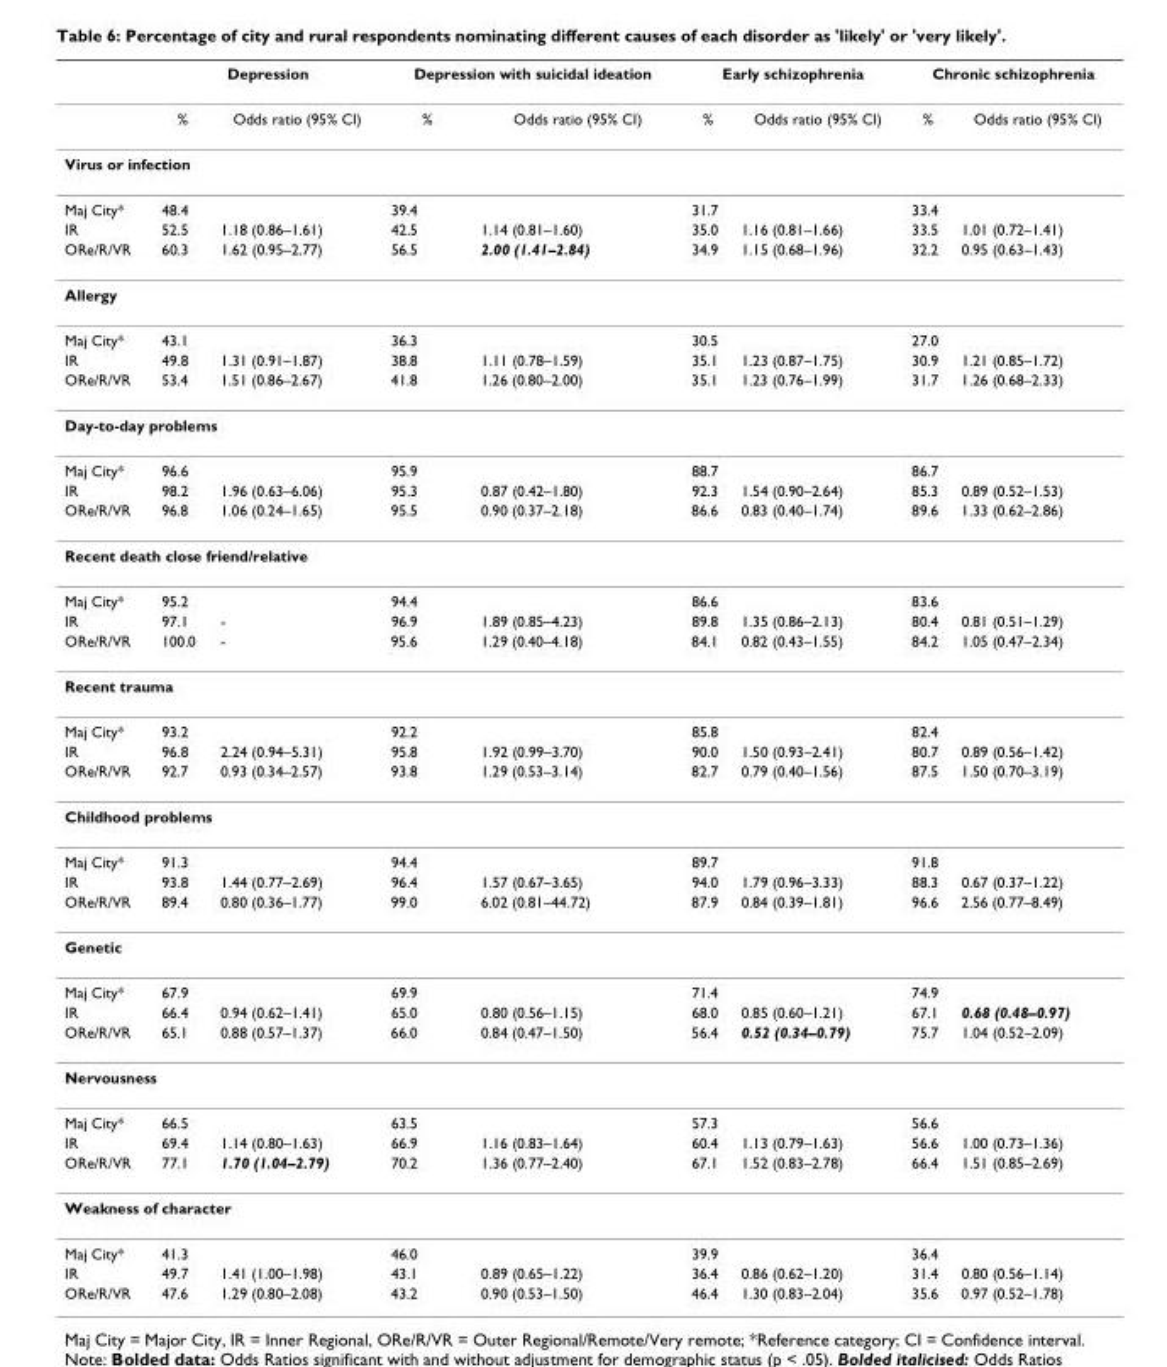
<table><thead><tr><td rowspan="2"></td><td colspan="2">Depression</td><td colspan="2">Depression with suicidal ideation</td><td colspan="2">Early schizophrenia</td><td colspan="2">Chronic schizophrenia</td></tr><tr><td>%</td><td>Odds ratio (95% CI)</td><td>%</td><td>Odds ratio (95% CI)</td><td>%</td><td>Odds ratio (95% CI)</td><td>%</td><td>Odds ratio (95% CI)</td></tr></thead><tbody><tr><td colspan="9">Virus or infection</td></tr><tr><td>Maj City*</td><td>48.4</td><td></td><td>39.4</td><td></td><td>31.7</td><td></td><td>33.4</td><td></td></tr><tr><td>IR</td><td>52.5</td><td>1.18 (0.86–1.61)</td><td>42.5</td><td>1.14 (0.81–1.60)</td><td>35.0</td><td>1.16 (0.81–1.66)</td><td>33.5</td><td>1.01 (0.72–1.41)</td></tr><tr><td>ORe/R/VR</td><td>60.3</td><td>1.62 (0.95–2.77)</td><td>56.5</td><td>2.00 (1.41–2.84)</td><td>34.9</td><td>1.15 (0.68–1.96)</td><td>32.2</td><td>0.95 (0.63–1.43)</td></tr><tr><td colspan="9">Allergy</td></tr><tr><td>Maj City*</td><td>43.1</td><td></td><td>36.3</td><td></td><td>30.5</td><td></td><td>27.0</td><td></td></tr><tr><td>IR</td><td>49.8</td><td>1.31 (0.91–1.87)</td><td>38.8</td><td>1.11 (0.78–1.59)</td><td>35.1</td><td>1.23 (0.87–1.75)</td><td>30.9</td><td>1.21 (0.85–1.72)</td></tr><tr><td>ORe/R/VR</td><td>53.4</td><td>1.51 (0.86–2.67)</td><td>41.8</td><td>1.26 (0.80–2.00)</td><td>35.1</td><td>1.23 (0.76–1.99)</td><td>31.7</td><td>1.26 (0.68–2.33)</td></tr><tr><td colspan="9">Day-to-day problems</td></tr><tr><td>Maj City*</td><td>96.6</td><td></td><td>95.9</td><td></td><td>88.7</td><td></td><td>86.7</td><td></td></tr><tr><td>IR</td><td>98.2</td><td>1.96 (0.63–6.06)</td><td>95.3</td><td>0.87 (0.42–1.80)</td><td>92.3</td><td>1.54 (0.90–2.64)</td><td>85.3</td><td>0.89 (0.52–1.53)</td></tr><tr><td>ORe/R/VR</td><td>96.8</td><td>1.06 (0.24–1.65)</td><td>95.5</td><td>0.90 (0.37–2.18)</td><td>86.6</td><td>0.83 (0.40–1.74)</td><td>89.6</td><td>1.33 (0.62–2.86)</td></tr><tr><td colspan="9">Recent death close friend/relative</td></tr><tr><td>Maj City*</td><td>95.2</td><td></td><td>94.4</td><td></td><td>86.6</td><td></td><td>83.6</td><td></td></tr><tr><td>IR</td><td>97.1</td><td>-</td><td>96.9</td><td>1.89 (0.85–4.23)</td><td>89.8</td><td>1.35 (0.86–2.13)</td><td>80.4</td><td>0.81 (0.51–1.29)</td></tr><tr><td>ORe/R/VR</td><td>100.0</td><td>-</td><td>95.6</td><td>1.29 (0.40–4.18)</td><td>84.1</td><td>0.82 (0.43–1.55)</td><td>84.2</td><td>1.05 (0.47–2.34)</td></tr><tr><td colspan="9">Recent trauma</td></tr><tr><td>Maj City*</td><td>93.2</td><td></td><td>92.2</td><td></td><td>85.8</td><td></td><td>82.4</td><td></td></tr><tr><td>IR</td><td>96.8</td><td>2.24 (0.94–5.31)</td><td>95.8</td><td>1.92 (0.99–3.70)</td><td>90.0</td><td>1.50 (0.93–2.41)</td><td>80.7</td><td>0.89 (0.56–1.42)</td></tr><tr><td>ORe/R/VR</td><td>92.7</td><td>0.93 (0.34–2.57)</td><td>93.8</td><td>1.29 (0.53–3.14)</td><td>82.7</td><td>0.79 (0.40–1.56)</td><td>87.5</td><td>1.50 (0.70–3.19)</td></tr><tr><td colspan="9">Childhood problems</td></tr><tr><td>Maj City*</td><td>91.3</td><td></td><td>94.4</td><td></td><td>89.7</td><td></td><td>91.8</td><td></td></tr><tr><td>IR</td><td>93.8</td><td>1.44 (0.77–2.69)</td><td>96.4</td><td>1.57 (0.67–3.65)</td><td>94.0</td><td>1.79 (0.96–3.33)</td><td>88.3</td><td>0.67 (0.37–1.22)</td></tr><tr><td>ORe/R/VR</td><td>89.4</td><td>0.80 (0.36–1.77)</td><td>99.0</td><td>6.02 (0.81–44.72)</td><td>87.9</td><td>0.84 (0.39–1.81)</td><td>96.6</td><td>2.56 (0.77–8.49)</td></tr><tr><td colspan="9">Genetic</td></tr><tr><td>Maj City*</td><td>67.9</td><td></td><td>69.9</td><td></td><td>71.4</td><td></td><td>74.9</td><td></td></tr><tr><td>IR</td><td>66.4</td><td>0.94 (0.62–1.41)</td><td>65.0</td><td>0.80 (0.56–1.15)</td><td>68.0</td><td>0.85 (0.60–1.21)</td><td>67.1</td><td>0.68 (0.48–0.97)</td></tr><tr><td>ORe/R/VR</td><td>65.1</td><td>0.88 (0.57–1.37)</td><td>66.0</td><td>0.84 (0.47–1.50)</td><td>56.4</td><td>0.52 (0.34–0.79)</td><td>75.7</td><td>1.04 (0.52–2.09)</td></tr><tr><td colspan="9">Nervousness</td></tr><tr><td>Maj City*</td><td>66.5</td><td></td><td>63.5</td><td></td><td>57.3</td><td></td><td>56.6</td><td></td></tr><tr><td>IR</td><td>69.4</td><td>1.14 (0.80–1.63)</td><td>66.9</td><td>1.16 (0.83–1.64)</td><td>60.4</td><td>1.13 (0.79–1.63)</td><td>56.6</td><td>1.00 (0.73–1.36)</td></tr><tr><td>ORe/R/VR</td><td>77.1</td><td>1.70 (1.04–2.79)</td><td>70.2</td><td>1.36 (0.77–2.40)</td><td>67.1</td><td>1.52 (0.83–2.78)</td><td>66.4</td><td>1.51 (0.85–2.69)</td></tr><tr><td colspan="9">Weakness of character</td></tr><tr><td>Maj City*</td><td>41.3</td><td></td><td>46.0</td><td></td><td>39.9</td><td></td><td>36.4</td><td></td></tr><tr><td>IR</td><td>49.7</td><td>1.41 (1.00–1.98)</td><td>43.1</td><td>0.89 (0.65–1.22)</td><td>36.4</td><td>0.86 (0.62–1.20)</td><td>31.4</td><td>0.80 (0.56–1.14)</td></tr><tr><td>ORe/R/VR</td><td>47.6</td><td>1.29 (0.80–2.08)</td><td>43.2</td><td>0.90 (0.53–1.50)</td><td>46.4</td><td>1.30 (0.83–2.04)</td><td>35.6</td><td>0.97 (0.52–1.78)</td></tr></tbody></table>